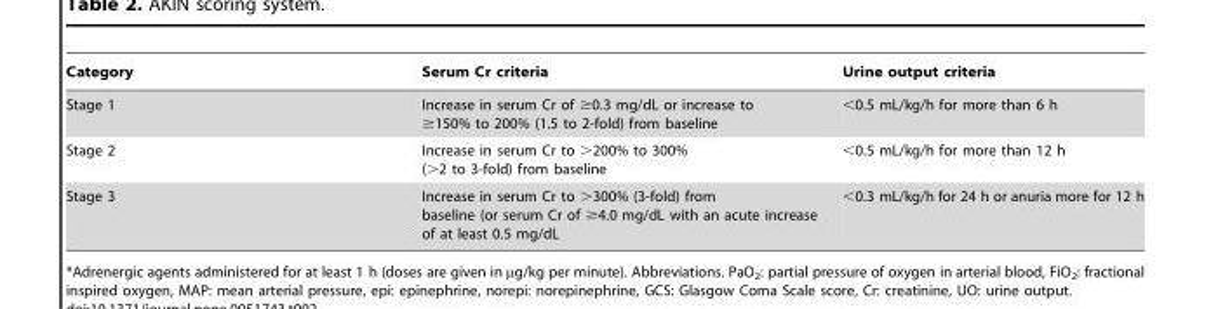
<table><thead><tr><td>Category</td><td>Serum Cr criteria</td><td>Urine output criteria</td></tr></thead><tbody><tr><td>Stage 1</td><td>Increase in serum Cr of ≥0.3 mg/dL or increase to ≥150% to 200% (1.5 to 2-fold) from baseline</td><td>&lt;0.5 mL/kg/h for more than 6 h</td></tr><tr><td>Stage 2</td><td>Increase in serum Cr to &gt;200% to 300% (&gt;2 to 3-fold) from baseline</td><td>&lt;0.5 mL/kg/h for more than 12 h</td></tr><tr><td>Stage 3</td><td>Increase in serum Cr to &gt;300% (3-fold) from baseline (or serum Cr of ≥4.0 mg/dL with an acute increase of at least 0.5 mg/dL</td><td>&lt;0.3 mL/kg/h for 24 h or anuria more for 12 h</td></tr></tbody></table>